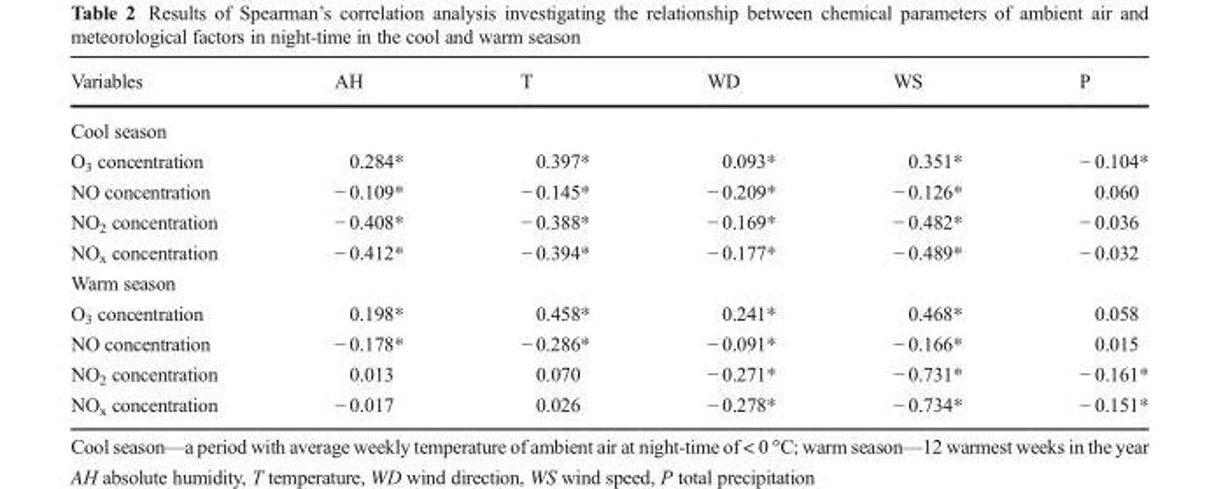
<table><thead><tr><td>Variables</td><td>AH</td><td>T</td><td>WD</td><td>WS</td><td>P</td></tr></thead><tbody><tr><td colspan="6">Cool season</td></tr><tr><td>O<sub>3</sub> concentration</td><td>0.284*</td><td>0.397*</td><td>0.093*</td><td>0.351*</td><td>− 0.104*</td></tr><tr><td>NO concentration</td><td>− 0.109*</td><td>− 0.145*</td><td>− 0.209*</td><td>− 0.126*</td><td>0.060</td></tr><tr><td>NO<sub>2</sub> concentration</td><td>− 0.408*</td><td>− 0.388*</td><td>− 0.169*</td><td>− 0.482*</td><td>− 0.036</td></tr><tr><td>NO<sub>x</sub> concentration</td><td>− 0.412*</td><td>− 0.394*</td><td>− 0.177*</td><td>− 0.489*</td><td>− 0.032</td></tr><tr><td colspan="6">Warm season</td></tr><tr><td>O<sub>3</sub> concentration</td><td>0.198*</td><td>0.458*</td><td>0.241*</td><td>0.468*</td><td>0.058</td></tr><tr><td>NO concentration</td><td>− 0.178*</td><td>− 0.286*</td><td>− 0.091*</td><td>− 0.166*</td><td>0.015</td></tr><tr><td>NO<sub>2</sub> concentration</td><td>0.013</td><td>0.070</td><td>− 0.271*</td><td>− 0.731*</td><td>− 0.161*</td></tr><tr><td>NO<sub>x</sub> concentration</td><td>− 0.017</td><td>0.026</td><td>− 0.278*</td><td>− 0.734*</td><td>− 0.151*</td></tr></tbody></table>